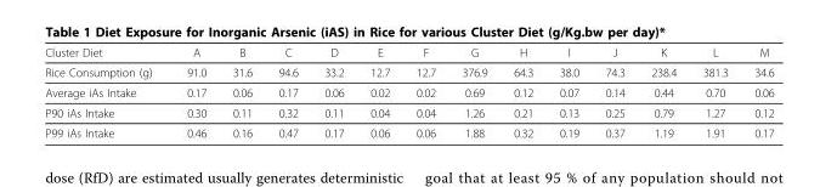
<table><thead><tr><td>Cluster Diet</td><td>A</td><td>B</td><td>C</td><td>D</td><td>E</td><td>F</td><td>G</td><td>H</td><td>I</td><td>J</td><td>K</td><td>L</td><td>M</td></tr></thead><tbody><tr><td>Rice Consumption (g)</td><td>91.0</td><td>31.6</td><td>94.6</td><td>33.2</td><td>12.7</td><td>12.7</td><td>376.9</td><td>64.3</td><td>38.0</td><td>74.3</td><td>238.4</td><td>381.3</td><td>34.6</td></tr><tr><td>Average iAs Intake</td><td>0.17</td><td>0.06</td><td>0.17</td><td>0.06</td><td>0.02</td><td>0.02</td><td>0.69</td><td>0.12</td><td>0.07</td><td>0.14</td><td>0.44</td><td>0.70</td><td>0.06</td></tr><tr><td>P90 iAs Intake</td><td>0.30</td><td>0.11</td><td>0.32</td><td>0.11</td><td>0.04</td><td>0.04</td><td>1.26</td><td>0.21</td><td>0.13</td><td>0.25</td><td>0.79</td><td>1.27</td><td>0.12</td></tr><tr><td>P99 iAs Intake</td><td>0.46</td><td>0.16</td><td>0.47</td><td>0.17</td><td>0.06</td><td>0.06</td><td>1.88</td><td>0.32</td><td>0.19</td><td>0.37</td><td>1.19</td><td>1.91</td><td>0.17</td></tr></tbody></table>